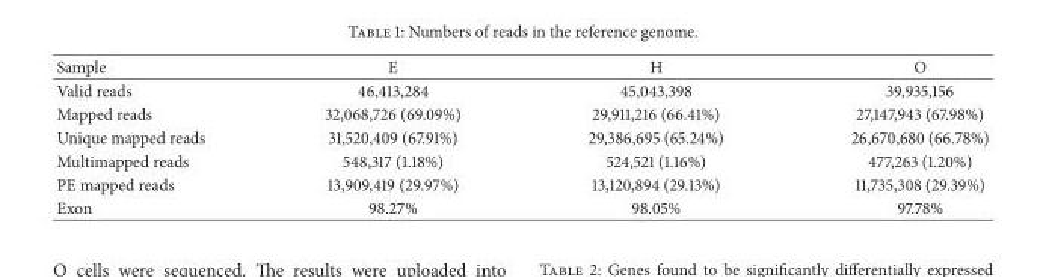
<table><thead><tr><td>Sample</td><td>E</td><td>H</td><td>O</td></tr></thead><tbody><tr><td>Valid reads</td><td>46,413,284</td><td>45,043,398</td><td>39,935,156</td></tr><tr><td>Mapped reads</td><td>32,068,726 (69.09%)</td><td>29,911,216 (66.41%)</td><td>27,147,943 (67.98%)</td></tr><tr><td>Unique mapped reads</td><td>31,520,409 (67.91%)</td><td>29,386,695 (65.24%)</td><td>26,670,680 (66.78%)</td></tr><tr><td>Multimapped reads</td><td>548,317 (1.18%)</td><td>524,521 (1.16%)</td><td>477,263 (1.20%)</td></tr><tr><td>PE mapped reads</td><td>13,909,419 (29.97%)</td><td>13,120,894 (29.13%)</td><td>11,735,308 (29.39%)</td></tr><tr><td>Exon</td><td>98.27%</td><td>98.05%</td><td>97.78%</td></tr></tbody></table>